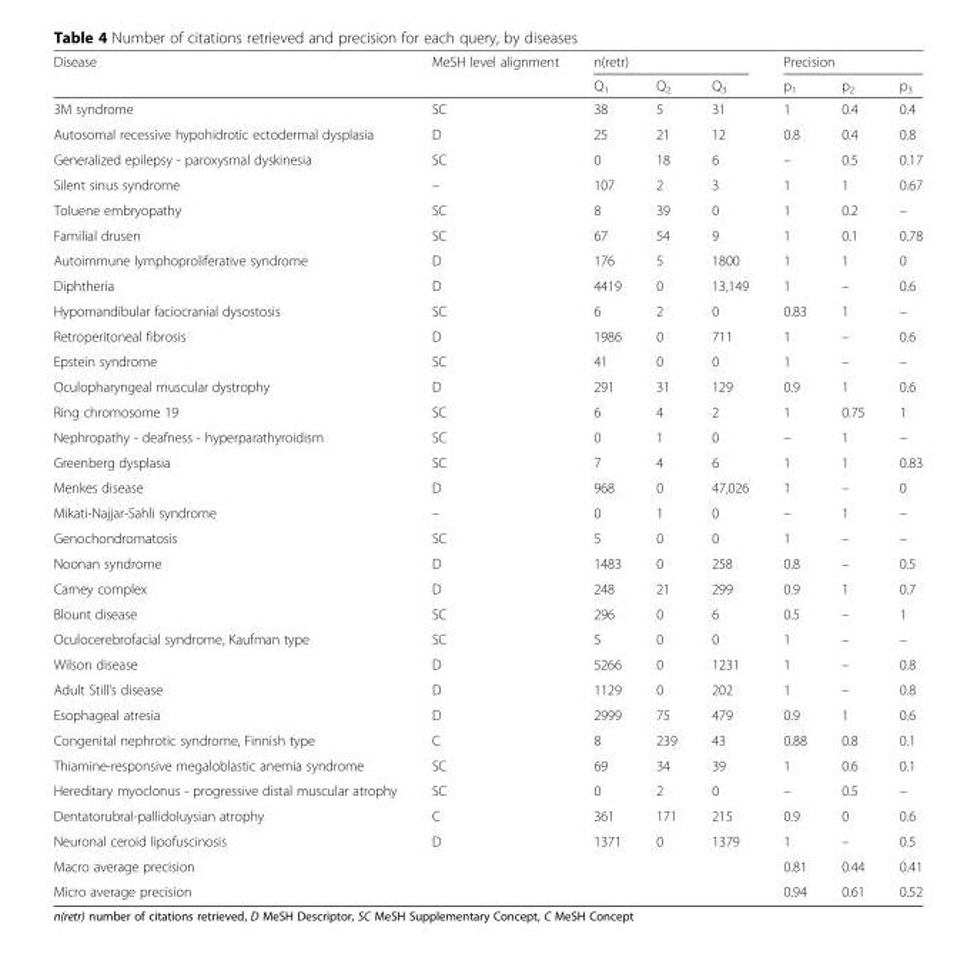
<table><thead><tr><td rowspan="2">Disease</td><td rowspan="2">MeSH level alignment</td><td colspan="3">n(retr)</td><td colspan="3">Precision</td></tr><tr><td>Q<sub>1</sub></td><td>Q<sub>2</sub></td><td>Q<sub>3</sub></td><td>p<sub>1</sub></td><td>p<sub>2</sub></td><td>p<sub>3</sub></td></tr></thead><tbody><tr><td>3M syndrome</td><td>SC</td><td>38</td><td>5</td><td>31</td><td>1</td><td>0.4</td><td>0.4</td></tr><tr><td>Autosomal recessive hypohidrotic ectodermal dysplasia</td><td>D</td><td>25</td><td>21</td><td>12</td><td>0.8</td><td>0.4</td><td>0.8</td></tr><tr><td>Generalized epilepsy - paroxysmal dyskinesia</td><td>SC</td><td>0</td><td>18</td><td>6</td><td>–</td><td>0.5</td><td>0.17</td></tr><tr><td>Silent sinus syndrome</td><td>–</td><td>107</td><td>2</td><td>3</td><td>1</td><td>1</td><td>0.67</td></tr><tr><td>Toluene embryopathy</td><td>SC</td><td>8</td><td>39</td><td>0</td><td>1</td><td>0.2</td><td>–</td></tr><tr><td>Familial drusen</td><td>SC</td><td>67</td><td>54</td><td>9</td><td>1</td><td>0.1</td><td>0.78</td></tr><tr><td>Autoimmune lymphoproliferative syndrome</td><td>D</td><td>176</td><td>5</td><td>1800</td><td>1</td><td>1</td><td>0</td></tr><tr><td>Diphtheria</td><td>D</td><td>4419</td><td>0</td><td>13,149</td><td>1</td><td>–</td><td>0.6</td></tr><tr><td>Hypomandibular faciocranial dysostosis</td><td>SC</td><td>6</td><td>2</td><td>0</td><td>0.83</td><td>1</td><td>–</td></tr><tr><td>Retroperitoneal fibrosis</td><td>D</td><td>1986</td><td>0</td><td>711</td><td>1</td><td>–</td><td>0.6</td></tr><tr><td>Epstein syndrome</td><td>SC</td><td>41</td><td>0</td><td>0</td><td>1</td><td>–</td><td>–</td></tr><tr><td>Oculopharyngeal muscular dystrophy</td><td>D</td><td>291</td><td>31</td><td>129</td><td>0.9</td><td>1</td><td>0.6</td></tr><tr><td>Ring chromosome 19</td><td>SC</td><td>6</td><td>4</td><td>2</td><td>1</td><td>0.75</td><td>1</td></tr><tr><td>Nephropathy - deafness - hyperparathyroidism</td><td>SC</td><td>0</td><td>1</td><td>0</td><td>–</td><td>1</td><td>–</td></tr><tr><td>Greenberg dysplasia</td><td>SC</td><td>7</td><td>4</td><td>6</td><td>1</td><td>1</td><td>0.83</td></tr><tr><td>Menkes disease</td><td>D</td><td>968</td><td>0</td><td>47,026</td><td>1</td><td>–</td><td>0</td></tr><tr><td>Mikati-Najjar-Sahli syndrome</td><td>–</td><td>0</td><td>1</td><td>0</td><td>–</td><td>1</td><td>–</td></tr><tr><td>Genochondromatosis</td><td>SC</td><td>5</td><td>0</td><td>0</td><td>1</td><td>–</td><td>–</td></tr><tr><td>Noonan syndrome</td><td>D</td><td>1483</td><td>0</td><td>258</td><td>0.8</td><td>–</td><td>0.5</td></tr><tr><td>Carney complex</td><td>D</td><td>248</td><td>21</td><td>299</td><td>0.9</td><td>1</td><td>0.7</td></tr><tr><td>Blount disease</td><td>SC</td><td>296</td><td>0</td><td>6</td><td>0.5</td><td>–</td><td>1</td></tr><tr><td>Oculocerebrofacial syndrome, Kaufman type</td><td>SC</td><td>5</td><td>0</td><td>0</td><td>1</td><td>–</td><td>–</td></tr><tr><td>Wilson disease</td><td>D</td><td>5266</td><td>0</td><td>1231</td><td>1</td><td>–</td><td>0.8</td></tr><tr><td>Adult Still’s disease</td><td>D</td><td>1129</td><td>0</td><td>202</td><td>1</td><td>–</td><td>0.8</td></tr><tr><td>Esophageal atresia</td><td>D</td><td>2999</td><td>75</td><td>479</td><td>0.9</td><td>1</td><td>0.6</td></tr><tr><td>Congenital nephrotic syndrome, Finnish type</td><td>C</td><td>8</td><td>239</td><td>43</td><td>0.88</td><td>0.8</td><td>0.1</td></tr><tr><td>Thiamine-responsive megaloblastic anemia syndrome</td><td>SC</td><td>69</td><td>34</td><td>39</td><td>1</td><td>0.6</td><td>0.1</td></tr><tr><td>Hereditary myoclonus - progressive distal muscular atrophy</td><td>SC</td><td>0</td><td>2</td><td>0</td><td>–</td><td>0.5</td><td>–</td></tr><tr><td>Dentatorubral-pallidoluysian atrophy</td><td>C</td><td>361</td><td>171</td><td>215</td><td>0.9</td><td>0</td><td>0.6</td></tr><tr><td>Neuronal ceroid lipofuscinosis</td><td>D</td><td>1371</td><td>0</td><td>1379</td><td>1</td><td>–</td><td>0.5</td></tr><tr><td>Macro average precision</td><td></td><td></td><td></td><td></td><td>0.81</td><td>0.44</td><td>0.41</td></tr><tr><td>Micro average precision</td><td></td><td></td><td></td><td></td><td>0.94</td><td>0.61</td><td>0.52</td></tr></tbody></table>